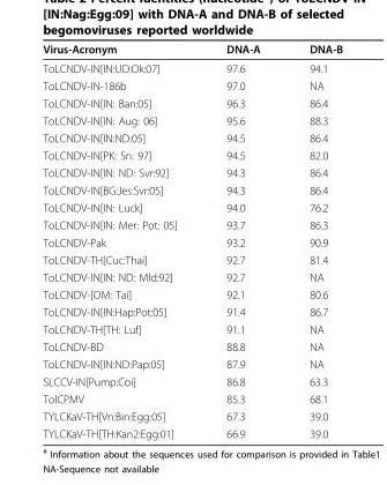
<table><thead><tr><td>Virus-Acronym</td><td>DNA-A</td><td>DNA-B</td></tr></thead><tbody><tr><td>ToLCNDV-IN[IN:UD:Ok:07]</td><td>97.6</td><td>94.1</td></tr><tr><td>ToLCNDV-IN-186b</td><td>97.0</td><td>NA</td></tr><tr><td>ToLCNDV-IN[IN: Ban:05]</td><td>96.3</td><td>86.4</td></tr><tr><td>ToLCNDV-IN[IN: Aug: 06]</td><td>95.6</td><td>88.3</td></tr><tr><td>ToLCNDV-IN[IN:ND:05]</td><td>94.5</td><td>86.4</td></tr><tr><td>ToLCNDV-IN[PK: Sn: 97]</td><td>94.5</td><td>82.0</td></tr><tr><td>ToLCNDV-IN[IN: ND: Svr:92]</td><td>94.3</td><td>86.4</td></tr><tr><td>ToLCNDV-IN[BG:Jes:Svr:05]</td><td>94.3</td><td>86.4</td></tr><tr><td>ToLCNDV-IN[IN: Luck]</td><td>94.0</td><td>76.2</td></tr><tr><td>ToLCNDV-IN[IN: Mer: Pot: 05]</td><td>93.7</td><td>86.3</td></tr><tr><td>ToLCNDV-Pak</td><td>93.2</td><td>90.9</td></tr><tr><td>ToLCNDV-TH[Cuc:Thai]</td><td>92.7</td><td>81.4</td></tr><tr><td>ToLCNDV-IN[IN: ND: Mld:92]</td><td>92.7</td><td>NA</td></tr><tr><td>ToLCNDV-[OM: Tai]</td><td>92.1</td><td>80.6</td></tr><tr><td>ToLCNDV-IN[IN:Hap:Pot:05]</td><td>91.4</td><td>86.7</td></tr><tr><td>ToLCNDV-TH[TH: Luf]</td><td>91.1</td><td>NA</td></tr><tr><td>ToLCNDV-BD</td><td>88.8</td><td>NA</td></tr><tr><td>ToLCNDV-IN[IN:ND:Pap:05]</td><td>87.9</td><td>NA</td></tr><tr><td>SLCCV-IN[Pump:Coi]</td><td>86.8</td><td>63.3</td></tr><tr><td>TolCPMV</td><td>85.3</td><td>68.1</td></tr><tr><td>TYLCKaV-TH[Vn:Bin:Egg:05]</td><td>67.3</td><td>39.0</td></tr><tr><td>TYLCKaV-TH[TH:Kan2:Egg:01]</td><td>66.9</td><td>39.0</td></tr></tbody></table>